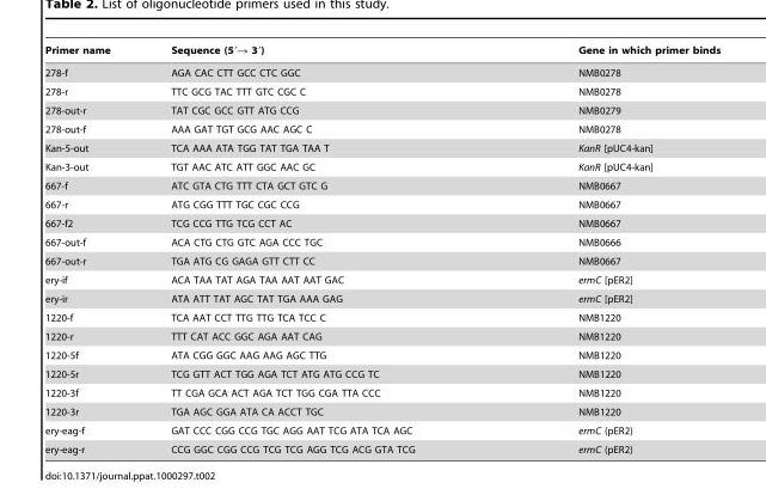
<table><thead><tr><td>Primer name</td><td>Sequence (5′→ 3′)</td><td>Gene in which primer binds</td></tr></thead><tbody><tr><td>278-f</td><td>AGA CAC CTT GCC CTC GGC</td><td>NMB0278</td></tr><tr><td>278-r</td><td>TTC GCG TAC TTT GTC CGC C</td><td>NMB0278</td></tr><tr><td>278-out-r</td><td>TAT CGC GCC GTT ATG CCG</td><td>NMB0279</td></tr><tr><td>278-out-f</td><td>AAA GAT TGT GCG AAC AGC C</td><td>NMB0278</td></tr><tr><td>Kan-5-out</td><td>TCA AAA ATA TGG TAT TGA TAA T</td><td>KanR [pUC4-kan]</td></tr><tr><td>Kan-3-out</td><td>TGT AAC ATC ATT GGC AAC GC</td><td>KanR [pUC4-kan]</td></tr><tr><td>667-f</td><td>ATC GTA CTG TTT CTA GCT GTC G</td><td>NMB0667</td></tr><tr><td>667-r</td><td>ATG CGG TTT TGC CGC CCG</td><td>NMB0667</td></tr><tr><td>667-f2</td><td>TCG CCG TTG TCG CCT AC</td><td>NMB0667</td></tr><tr><td>667-out-f</td><td>ACA CTG CTG GTC AGA CCC TGC</td><td>NMB0666</td></tr><tr><td>667-out-r</td><td>TGA ATG CG GAGA GTT CTT CC</td><td>NMB0667</td></tr><tr><td>ery-if</td><td>ACA TAA TAT AGA TAA AAT AAT GAC</td><td>ermC [pER2]</td></tr><tr><td>ery-ir</td><td>ATA ATT TAT AGC TAT TGA AAA GAG</td><td>ermC [pER2]</td></tr><tr><td>1220-f</td><td>TCA AAT CCT TTG TTG TCA TCC C</td><td>NMB1220</td></tr><tr><td>1220-r</td><td>TTT CAT ACC GGC AGA AAT CAG</td><td>NMB1220</td></tr><tr><td>1220-5f</td><td>ATA CGG GGC AAG AAG AGC TTG</td><td>NMB1220</td></tr><tr><td>1220-5r</td><td>TCG GTT ACT TGG AGA TCT ATG ATG CCG TC</td><td>NMB1220</td></tr><tr><td>1220-3f</td><td>TT CGA GCA ACT AGA TCT TGG CGA TTA CCC</td><td>NMB1220</td></tr><tr><td>1220-3r</td><td>TGA AGC GGA ATA CA ACCT TGC</td><td>NMB1220</td></tr><tr><td>ery-eag-f</td><td>GAT CCC CGG CCG TGC AGG AAT TCG ATA TCA AGC</td><td>ermC (pER2)</td></tr><tr><td>ery-eag-r</td><td>CCG GGC CGG CCG TCG TCG AGG TCG ACG GTA TCG</td><td>ermC (pER2)</td></tr></tbody></table>